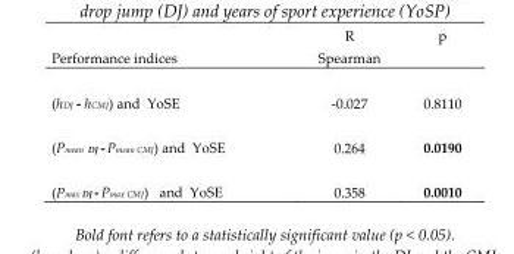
<table><thead><tr><td>Performance indices</td><td>Spearman</td><td></td></tr></thead><tbody><tr><td>(h<sub>DJ</sub> - h<sub>CMJ</sub>) and YoSE</td><td>-0.027</td><td>0.8110</td></tr><tr><td>(P<sub>mean DJ</sub> - P<sub>mean CMJ</sub>) and YoSE</td><td>0.264</td><td>0.0190</td></tr><tr><td>(P<sub>max DJ</sub> - P<sub>max CMJ</sub>) and YoSE</td><td>0.358</td><td>0.0010</td></tr></tbody></table>